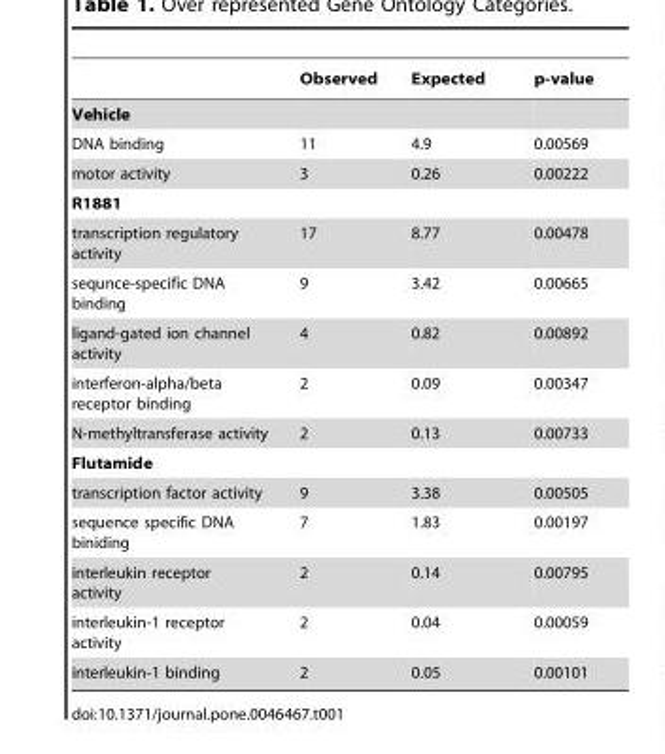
<table><thead><tr><td></td><td>Observed</td><td>Expected</td><td>p-value</td></tr></thead><tbody><tr><td colspan="4">Vehicle</td></tr><tr><td>DNA binding</td><td>11</td><td>4.9</td><td>0.00569</td></tr><tr><td>motor activity</td><td>3</td><td>0.26</td><td>0.00222</td></tr><tr><td colspan="4">R1881</td></tr><tr><td>transcription regulatory activity</td><td>17</td><td>8.77</td><td>0.00478</td></tr><tr><td>sequnce-specific DNA binding</td><td>9</td><td>3.42</td><td>0.00665</td></tr><tr><td>ligand-gated ion channel activity</td><td>4</td><td>0.82</td><td>0.00892</td></tr><tr><td>interferon-alpha/beta receptor binding</td><td>2</td><td>0.09</td><td>0.00347</td></tr><tr><td>N-methyltransferase activity</td><td>2</td><td>0.13</td><td>0.00733</td></tr><tr><td colspan="4">Flutamide</td></tr><tr><td>transcription factor activity</td><td>9</td><td>3.38</td><td>0.00505</td></tr><tr><td>sequence specific DNA biniding</td><td>7</td><td>1.83</td><td>0.00197</td></tr><tr><td>interleukin receptor activity</td><td>2</td><td>0.14</td><td>0.00795</td></tr><tr><td>interleukin-1 receptor activity</td><td>2</td><td>0.04</td><td>0.00059</td></tr><tr><td>interleukin-1 binding</td><td>2</td><td>0.05</td><td>0.00101</td></tr></tbody></table>